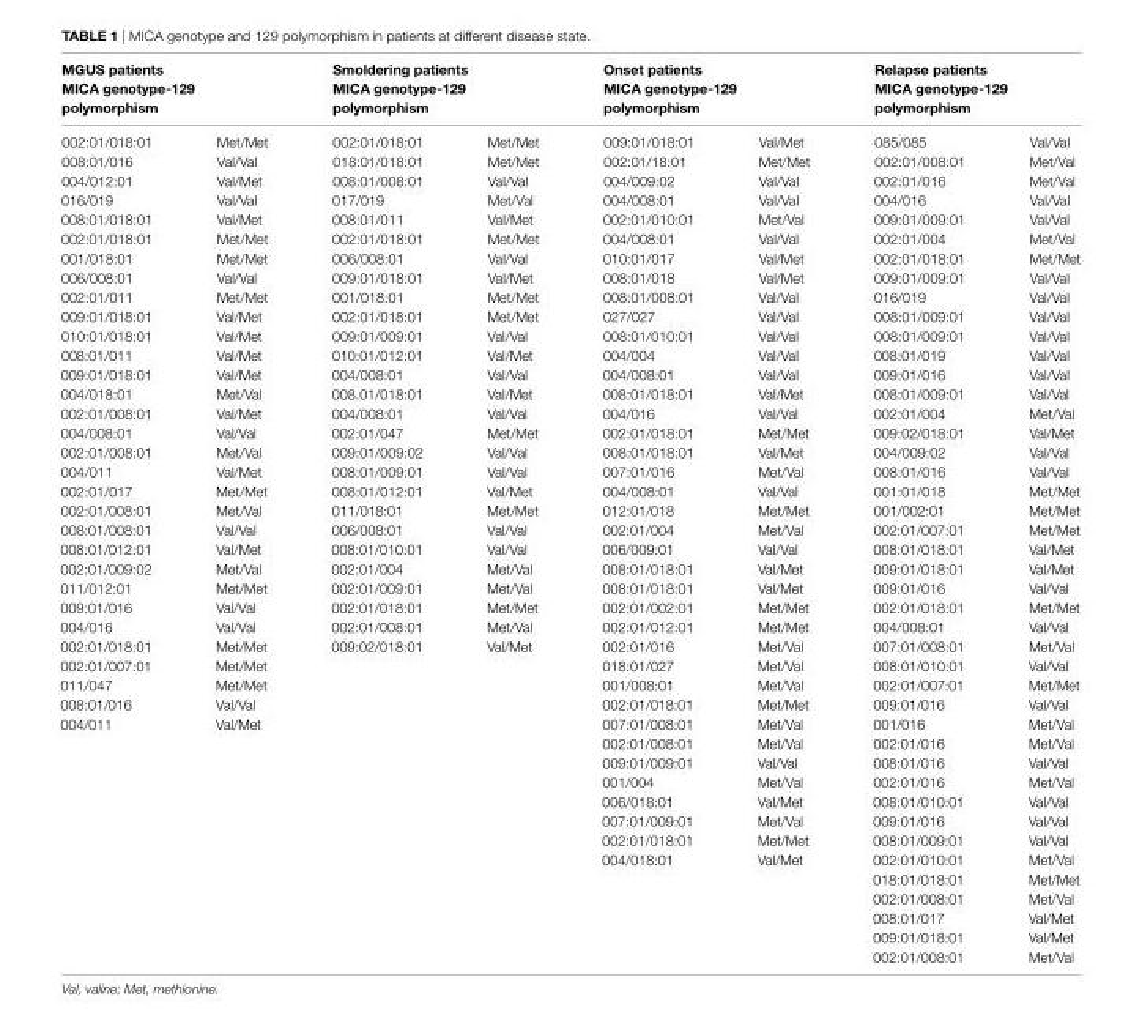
<table><thead><tr><td>MgUs patients Mica genotype-129 polymorphism</td><td></td><td>smoldering patients Mica genotype-129 polymorphism</td><td></td><td>Onset patients Mica genotype-129 polymorphism</td><td></td><td>relapse patients Mica genotype-129 polymorphism</td><td></td></tr></thead><tbody><tr><td>002:01/018:01</td><td>Met/Met</td><td>002:01/018:01</td><td>Met/Met</td><td>009:01/018:01</td><td>Val/Met</td><td>085/085</td><td>Val/Val</td></tr><tr><td>008:01/016</td><td>Val/Val</td><td>018:01/018:01</td><td>Met/Met</td><td>002:01/18:01</td><td>Met/Met</td><td>002:01/008:01</td><td>Met/Val</td></tr><tr><td>004/012:01</td><td>Val/Met</td><td>008:01/008:01</td><td>Val/Val</td><td>004/009:02</td><td>Val/Val</td><td>002:01/016</td><td>Met/Val</td></tr><tr><td>016/019</td><td>Val/Val</td><td>017/019</td><td>Met/Val</td><td>004/008:01</td><td>Val/Val</td><td>004/016</td><td>Val/Val</td></tr><tr><td>008:01/018:01</td><td>Val/Met</td><td>008:01/011</td><td>Val/Met</td><td>002:01/010:01</td><td>Met/Val</td><td>009:01/009:01</td><td>Val/Val</td></tr><tr><td>002:01/018:01</td><td>Met/Met</td><td>002:01/018:01</td><td>Met/Met</td><td>004/008:01</td><td>Val/Val</td><td>002:01/004</td><td>Met/Val</td></tr><tr><td>001/018:01</td><td>Met/Met</td><td>006/008:01</td><td>Val/Val</td><td>010:01/017</td><td>Val/Met</td><td>002:01/018:01</td><td>Met/Met</td></tr><tr><td>006/008:01</td><td>Val/Val</td><td>009:01/018:01</td><td>Val/Met</td><td>008:01/018</td><td>Val/Met</td><td>009:01/009:01</td><td>Val/Val</td></tr><tr><td>002:01/011</td><td>Met/Met</td><td>001/018:01</td><td>Met/Met</td><td>008:01/008:01</td><td>Val/Val</td><td>016/019</td><td>Val/Val</td></tr><tr><td>009:01/018:01</td><td>Val/Met</td><td>002:01/018:01</td><td>Met/Met</td><td>027/027</td><td>Val/Val</td><td>008:01/009:01</td><td>Val/Val</td></tr><tr><td>010:01/018:01</td><td>Val/Met</td><td>009:01/009:01</td><td>Val/Val</td><td>008:01/010:01</td><td>Val/Val</td><td>008:01/009:01</td><td>Val/Val</td></tr><tr><td>008:01/011</td><td>Val/Met</td><td>010:01/012:01</td><td>Val/Met</td><td>004/004</td><td>Val/Val</td><td>008:01/019</td><td>Val/Val</td></tr><tr><td>009:01/018:01</td><td>Val/Met</td><td>004/008:01</td><td>Val/Val</td><td>004/008:01</td><td>Val/Val</td><td>009:01/016</td><td>Val/Val</td></tr><tr><td>004/018:01</td><td>Met/Val</td><td>008.01/018:01</td><td>Val/Met</td><td>008:01/018:01</td><td>Val/Met</td><td>008:01/009:01</td><td>Val/Val</td></tr><tr><td>002:01/008:01</td><td>Val/Met</td><td>004/008:01</td><td>Val/Val</td><td>004/016</td><td>Val/Val</td><td>002:01/004</td><td>Met/Val</td></tr><tr><td>004/008:01</td><td>Val/Val</td><td>002:01/047</td><td>Met/Met</td><td>002:01/018:01</td><td>Met/Met</td><td>009:02/018:01</td><td>Val/Met</td></tr><tr><td>002:01/008:01</td><td>Met/Val</td><td>009:01/009:02</td><td>Val/Val</td><td>008:01/018:01</td><td>Val/Met</td><td>004/009:02</td><td>Val/Val</td></tr><tr><td>004/011</td><td>Val/Met</td><td>008:01/009:01</td><td>Val/Val</td><td>007:01/016</td><td>Met/Val</td><td>008:01/016</td><td>Val/Val</td></tr><tr><td>002:01/017</td><td>Met/Met</td><td>008:01/012:01</td><td>Val/Met</td><td>004/008:01</td><td>Val/Val</td><td>001:01/018</td><td>Met/Met</td></tr><tr><td>002:01/008:01</td><td>Met/Val</td><td>011/018:01</td><td>Met/Met</td><td>012:01/018</td><td>Met/Met</td><td>001/002:01</td><td>Met/Met</td></tr><tr><td>008:01/008:01</td><td>Val/Val</td><td>006/008:01</td><td>Val/Val</td><td>002:01/004</td><td>Met/Val</td><td>002:01/007:01</td><td>Met/Met</td></tr><tr><td>008:01/012:01</td><td>Val/Met</td><td>008:01/010:01</td><td>Val/Val</td><td>006/009:01</td><td>Val/Val</td><td>008:01/018:01</td><td>Val/Met</td></tr><tr><td>002:01/009:02</td><td>Met/Val</td><td>002:01/004</td><td>Met/Val</td><td>008:01/018:01</td><td>Val/Met</td><td>009:01/018:01</td><td>Val/Met</td></tr><tr><td>011/012:01</td><td>Met/Met</td><td>002:01/009:01</td><td>Met/Val</td><td>008:01/018:01</td><td>Val/Met</td><td>009:01/016</td><td>Val/Val</td></tr><tr><td>009:01/016</td><td>Val/Val</td><td>002:01/018:01</td><td>Met/Met</td><td>002:01/002:01</td><td>Met/Met</td><td>002:01/018:01</td><td>Met/Met</td></tr><tr><td>004/016</td><td>Val/Val</td><td>002:01/008:01</td><td>Met/Val</td><td>002:01/012:01</td><td>Met/Met</td><td>004/008:01</td><td>Val/Val</td></tr><tr><td>002:01/018:01</td><td>Met/Met</td><td>009:02/018:01</td><td>Val/Met</td><td>002:01/016</td><td>Met/Val</td><td>007:01/008:01</td><td>Met/Val</td></tr><tr><td>002:01/007:01</td><td>Met/Met</td><td></td><td></td><td>018:01/027</td><td>Met/Val</td><td>008:01/010:01</td><td>Val/Val</td></tr><tr><td>011/047</td><td>Met/Met</td><td></td><td></td><td>001/008:01</td><td>Met/Val</td><td>002:01/007:01</td><td>Met/Met</td></tr><tr><td>008:01/016</td><td>Val/Val</td><td></td><td></td><td>002:01/018:01</td><td>Met/Met</td><td>009:01/016</td><td>Val/Val</td></tr><tr><td rowspan="13">004/011</td><td>Val/Met</td><td></td><td></td><td>007:01/008:01</td><td>Met/Val</td><td>001/016</td><td>Met/Val</td></tr><tr><td></td><td></td><td></td><td>002:01/008:01</td><td>Met/Val</td><td>002:01/016</td><td>Met/Val</td></tr><tr><td></td><td></td><td></td><td>009:01/009:01</td><td>Val/Val</td><td>008:01/016</td><td>Val/Val</td></tr><tr><td></td><td></td><td></td><td>001/004</td><td>Met/Val</td><td>002:01/016</td><td>Met/Val</td></tr><tr><td></td><td></td><td></td><td>006/018:01</td><td>Val/Met</td><td>008:01/010:01</td><td>Val/Val</td></tr><tr><td></td><td></td><td></td><td>007:01/009:01</td><td>Met/Val</td><td>009:01/016</td><td>Val/Val</td></tr><tr><td></td><td></td><td></td><td>002:01/018:01</td><td>Met/Met</td><td>008:01/009:01</td><td>Val/Val</td></tr><tr><td></td><td></td><td></td><td>004/018:01</td><td>Val/Met</td><td>002:01/010:01</td><td>Met/Val</td></tr><tr><td></td><td></td><td></td><td></td><td></td><td>018:01/018:01</td><td>Met/Met</td></tr><tr><td></td><td></td><td></td><td></td><td></td><td>002:01/008:01</td><td>Met/Val</td></tr><tr><td></td><td></td><td></td><td></td><td></td><td>008:01/017</td><td>Val/Met</td></tr><tr><td></td><td></td><td></td><td></td><td></td><td>009:01/018:01</td><td>Val/Met</td></tr><tr><td></td><td></td><td></td><td></td><td></td><td>002:01/008:01</td><td>Met/Val</td></tr></tbody></table>